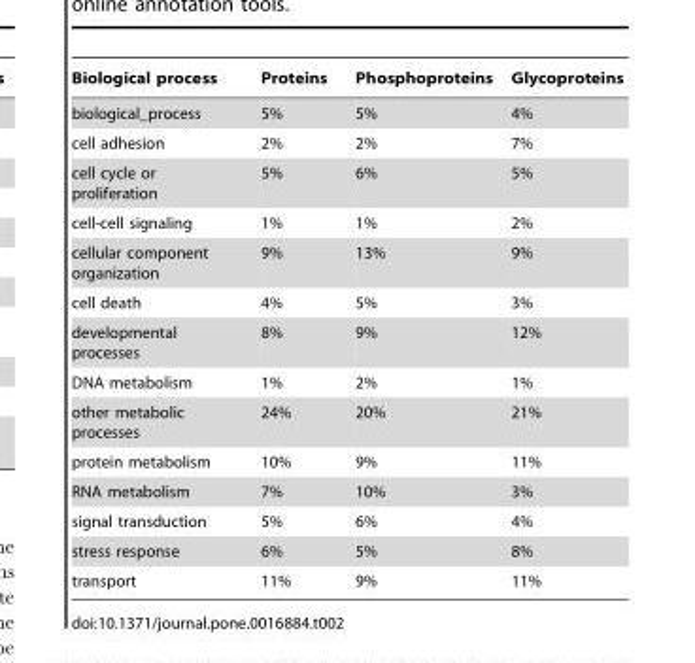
<table><thead><tr><td>Biological process</td><td>Proteins</td><td>Phosphoproteins</td><td>Glycoproteins</td></tr></thead><tbody><tr><td>biological_process</td><td>5%</td><td>5%</td><td>4%</td></tr><tr><td>cell adhesion</td><td>2%</td><td>2%</td><td>7%</td></tr><tr><td>cell cycle or proliferation</td><td>5%</td><td>6%</td><td>5%</td></tr><tr><td>cell-cell signaling</td><td>1%</td><td>1%</td><td>2%</td></tr><tr><td>cellular component organization</td><td>9%</td><td>13%</td><td>9%</td></tr><tr><td>cell death</td><td>4%</td><td>5%</td><td>3%</td></tr><tr><td>developmental processes</td><td>8%</td><td>9%</td><td>12%</td></tr><tr><td>DNA metabolism</td><td>1%</td><td>2%</td><td>1%</td></tr><tr><td>other metabolic processes</td><td>24%</td><td>20%</td><td>21%</td></tr><tr><td>protein metabolism</td><td>10%</td><td>9%</td><td>11%</td></tr><tr><td>RNA metabolism</td><td>7%</td><td>10%</td><td>3%</td></tr><tr><td>signal transduction</td><td>5%</td><td>6%</td><td>4%</td></tr><tr><td>stress response</td><td>6%</td><td>5%</td><td>8%</td></tr><tr><td>transport</td><td>11%</td><td>9%</td><td>11%</td></tr></tbody></table>